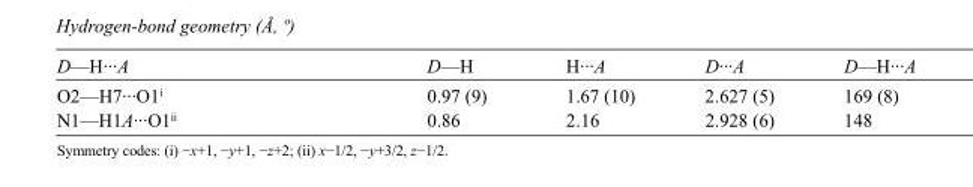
<table><tbody><tr><td>D—H···A</td><td>D—H</td><td>H···A</td><td>D···A</td><td>D—H···A</td></tr><tr><td>O2—H7···O1<sup>i</sup></td><td>0.97 (9)</td><td>1.67 (10)</td><td>2.627 (5)</td><td>169 (8)</td></tr><tr><td>N1—H1A···O1<sup>ii</sup></td><td>0.86</td><td>2.16</td><td>2.928 (6)</td><td>148</td></tr></tbody></table>